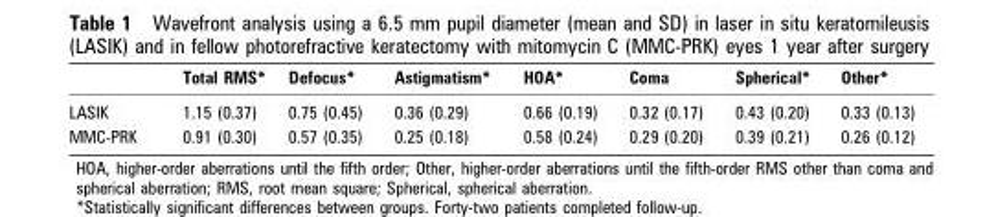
<table><thead><tr><td></td><td>Total RMS*</td><td>Defocus*</td><td>Astigmatism*</td><td>HOA*</td><td>Coma</td><td>Spherical*</td><td>Other*</td></tr></thead><tbody><tr><td>LASIK</td><td>1.15 (0.37)</td><td>0.75 (0.45)</td><td>0.36 (0.29)</td><td>0.66 (0.19)</td><td>0.32 (0.17)</td><td>0.43 (0.20)</td><td>0.33 (0.13)</td></tr><tr><td>MMC-PRK</td><td>0.91 (0.30)</td><td>0.57 (0.35)</td><td>0.25 (0.18)</td><td>0.58 (0.24)</td><td>0.29 (0.20)</td><td>0.39 (0.21)</td><td>0.26 (0.12)</td></tr></tbody></table>